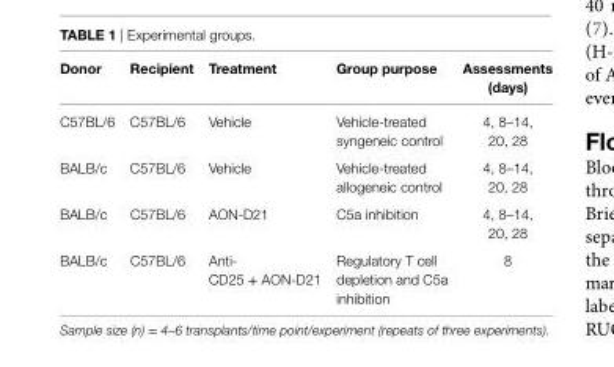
<table><thead><tr><td>Donor</td><td>recipient</td><td>Treatment</td><td>group purpose</td><td>assessments (days)</td></tr></thead><tbody><tr><td>C57BL/6</td><td>C57BL/6</td><td>Vehicle</td><td>Vehicle-treated syngeneic control</td><td>4, 8–14, 20, 28</td></tr><tr><td>BALB/c</td><td>C57BL/6</td><td>Vehicle</td><td>Vehicle-treated allogeneic control</td><td>4, 8–14, 20, 28</td></tr><tr><td>BALB/c</td><td>C57BL/6</td><td>AON-D21</td><td>C5a inhibition</td><td>4, 8–14, 20, 28</td></tr><tr><td>BALB/c</td><td>C57BL/6</td><td>Anti- CD25 + AON-D21</td><td>Regulatory T cell depletion and C5a inhibition</td><td>8</td></tr></tbody></table>